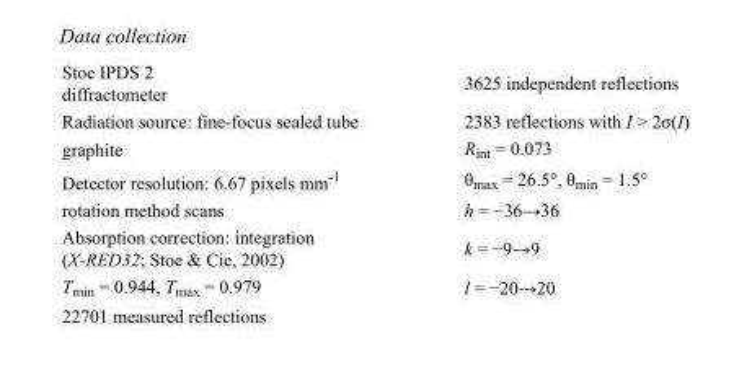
<table><tbody><tr><td>Stoe IPDS 2 diffractometer</td><td>3625 independent reflections</td></tr><tr><td>Radiation source: fine-focus sealed tube</td><td>2383 reflections with I &gt; 2σ(I)</td></tr><tr><td>graphite</td><td>R<sub>int</sub> = 0.073</td></tr><tr><td>Detector resolution: 6.67 pixels mm<sup>-1</sup></td><td>θ<sub>max</sub> = 26.5°, θ<sub>min</sub> = 1.5°</td></tr><tr><td>rotation method scans</td><td>h = −36→36</td></tr><tr><td>Absorption correction: integration (X-RED32; Stoe &amp; Cie, 2002)</td><td>k = −9→9</td></tr><tr><td>T<sub>min</sub> = 0.944, T<sub>max</sub> = 0.979</td><td>l = −20→20</td></tr><tr><td>22701 measured reflections</td><td></td></tr></tbody></table>